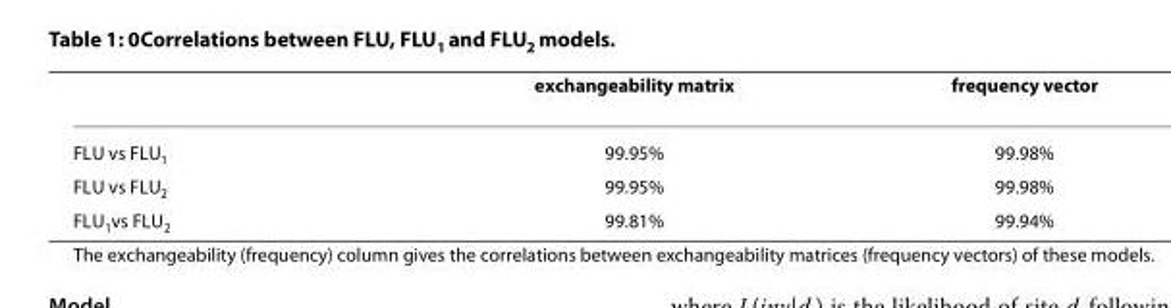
<table><thead><tr><td></td><td>exchangeability matrix</td><td>frequency vector</td></tr></thead><tbody><tr><td>FLU vs FLU<sub>1</sub></td><td>99.95%</td><td>99.98%</td></tr><tr><td>FLU vs FLU<sub>2</sub></td><td>99.95%</td><td>99.98%</td></tr><tr><td>FLU<sub>1</sub>vs FLU<sub>2</sub></td><td>99.81%</td><td>99.94%</td></tr></tbody></table>